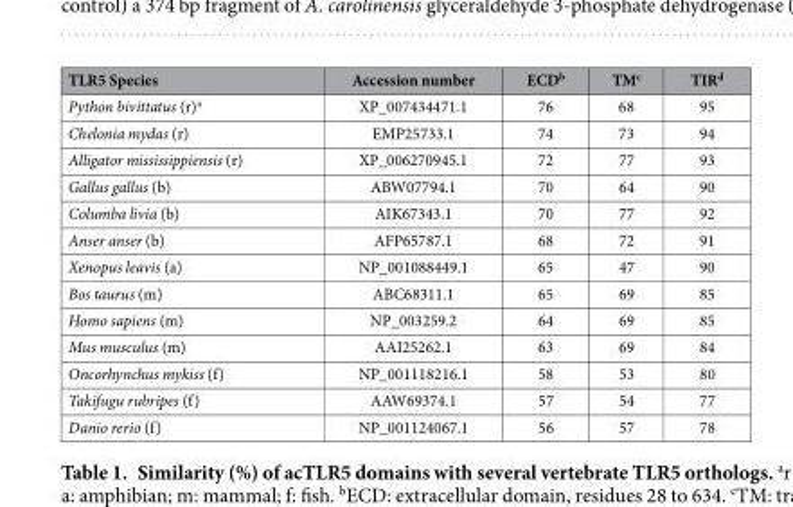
<table><thead><tr><td>TLR5 Species</td><td>Accession number</td><td>ECD<sup>b</sup></td><td>TM<sup>c</sup></td><td>TIR<sup>d</sup></td></tr></thead><tbody><tr><td>Python bivittatus (r)<sup>a</sup></td><td>XP_007434471.1</td><td>76</td><td>68</td><td>95</td></tr><tr><td>Chelonia mydas (r)</td><td>EMP25733.1</td><td>74</td><td>73</td><td>94</td></tr><tr><td>Alligator mississippiensis (r)</td><td>XP_006270945.1</td><td>72</td><td>77</td><td>93</td></tr><tr><td>Gallus gallus (b)</td><td>ABW07794.1</td><td>70</td><td>64</td><td>90</td></tr><tr><td>Columba livia (b)</td><td>AIK67343.1</td><td>70</td><td>77</td><td>92</td></tr><tr><td>Anser anser (b)</td><td>AFP65787.1</td><td>68</td><td>72</td><td>91</td></tr><tr><td>Xenopus leavis (a)</td><td>NP_001088449.1</td><td>65</td><td>47</td><td>90</td></tr><tr><td>Bos taurus (m)</td><td>ABC68311.1</td><td>65</td><td>69</td><td>85</td></tr><tr><td>Homo sapiens (m)</td><td>NP_003259.2</td><td>64</td><td>69</td><td>85</td></tr><tr><td>Mus musculus (m)</td><td>AAI25262.1</td><td>63</td><td>69</td><td>84</td></tr><tr><td>Oncorhynchus mykiss (f)</td><td>NP_001118216.1</td><td>58</td><td>53</td><td>80</td></tr><tr><td>Takifugu rubripes (f)</td><td>AAW69374.1</td><td>57</td><td>54</td><td>77</td></tr><tr><td>Danio rerio (f)</td><td>NP_001124067.1</td><td>56</td><td>57</td><td>78</td></tr></tbody></table>